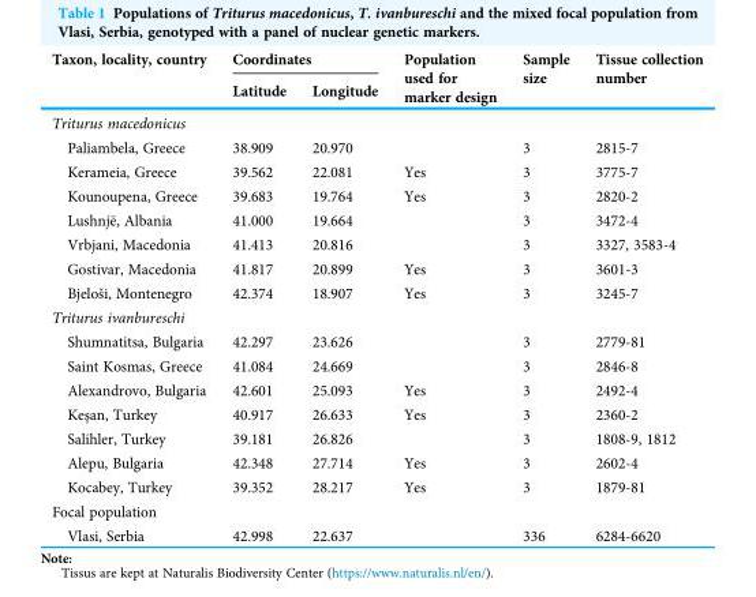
<table><thead><tr><td rowspan="2">Taxon, locality, country</td><td colspan="2">Coordinates</td><td rowspan="2">Population used for marker design</td><td rowspan="2">Sample size</td><td rowspan="2">Tissue collection number</td></tr><tr><td>Latitude</td><td>Longitude</td></tr></thead><tbody><tr><td colspan="6">Triturus macedonicus</td></tr><tr><td>Paliambela, Greece</td><td>38.909</td><td>20.970</td><td></td><td>3</td><td>2815-7</td></tr><tr><td>Kerameia, Greece</td><td>39.562</td><td>22.081</td><td>Yes</td><td>3</td><td>3775-7</td></tr><tr><td>Kounoupena, Greece</td><td>39.683</td><td>19.764</td><td>Yes</td><td>3</td><td>2820-2</td></tr><tr><td>Lushnjë, Albania</td><td>41.000</td><td>19.664</td><td></td><td>3</td><td>3472-4</td></tr><tr><td>Vrbjani, Macedonia</td><td>41.413</td><td>20.816</td><td></td><td>3</td><td>3327, 3583-4</td></tr><tr><td>Gostivar, Macedonia</td><td>41.817</td><td>20.899</td><td>Yes</td><td>3</td><td>3601-3</td></tr><tr><td>Bjeloši, Montenegro</td><td>42.374</td><td>18.907</td><td>Yes</td><td>3</td><td>3245-7</td></tr><tr><td colspan="6">Triturus ivanbureschi</td></tr><tr><td>Shumnatitsa, Bulgaria</td><td>42.297</td><td>23.626</td><td></td><td>3</td><td>2779-81</td></tr><tr><td>Saint Kosmas, Greece</td><td>41.084</td><td>24.669</td><td></td><td>3</td><td>2846-8</td></tr><tr><td>Alexandrovo, Bulgaria</td><td>42.601</td><td>25.093</td><td>Yes</td><td>3</td><td>2492-4</td></tr><tr><td>Keşan, Turkey</td><td>40.917</td><td>26.633</td><td>Yes</td><td>3</td><td>2360-2</td></tr><tr><td>Salihler, Turkey</td><td>39.181</td><td>26.826</td><td></td><td>3</td><td>1808-9, 1812</td></tr><tr><td>Alepu, Bulgaria</td><td>42.348</td><td>27.714</td><td>Yes</td><td>3</td><td>2602-4</td></tr><tr><td>Kocabey, Turkey</td><td>39.352</td><td>28.217</td><td>Yes</td><td>3</td><td>1879-81</td></tr><tr><td colspan="6">Focal population</td></tr><tr><td>Vlasi, Serbia</td><td>42.998</td><td>22.637</td><td></td><td>336</td><td>6284-6620</td></tr></tbody></table>